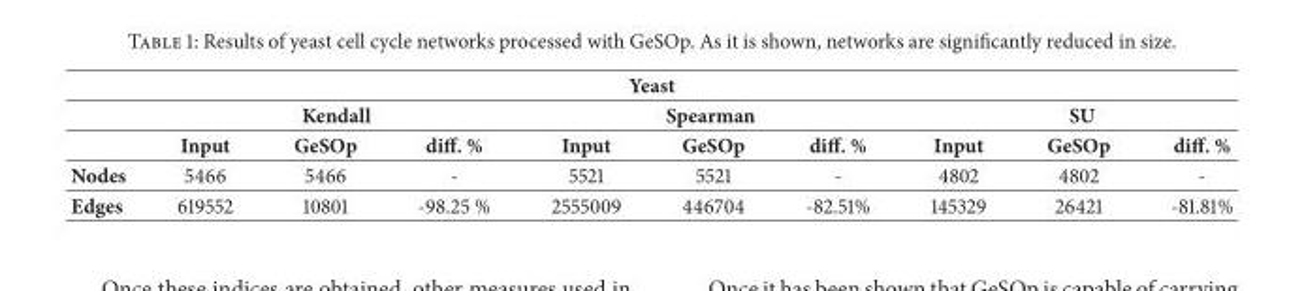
<table><thead><tr><td colspan="10">Yeast</td></tr><tr><td rowspan="2"></td><td colspan="3">Kendall</td><td colspan="3">Spearman</td><td colspan="3">SU</td></tr><tr><td>Input</td><td>GeSOp</td><td>diff. %</td><td>Input</td><td>GeSOp</td><td>diff. %</td><td>Input</td><td>GeSOp</td><td>diff. %</td></tr></thead><tbody><tr><td>Nodes</td><td>5466</td><td>5466</td><td>-</td><td>5521</td><td>5521</td><td>-</td><td>4802</td><td>4802</td><td>-</td></tr><tr><td>Edges</td><td>619552</td><td>10801</td><td>-98.25 %</td><td>2555009</td><td>446704</td><td>-82.51%</td><td>145329</td><td>26421</td><td>-81.81%</td></tr></tbody></table>